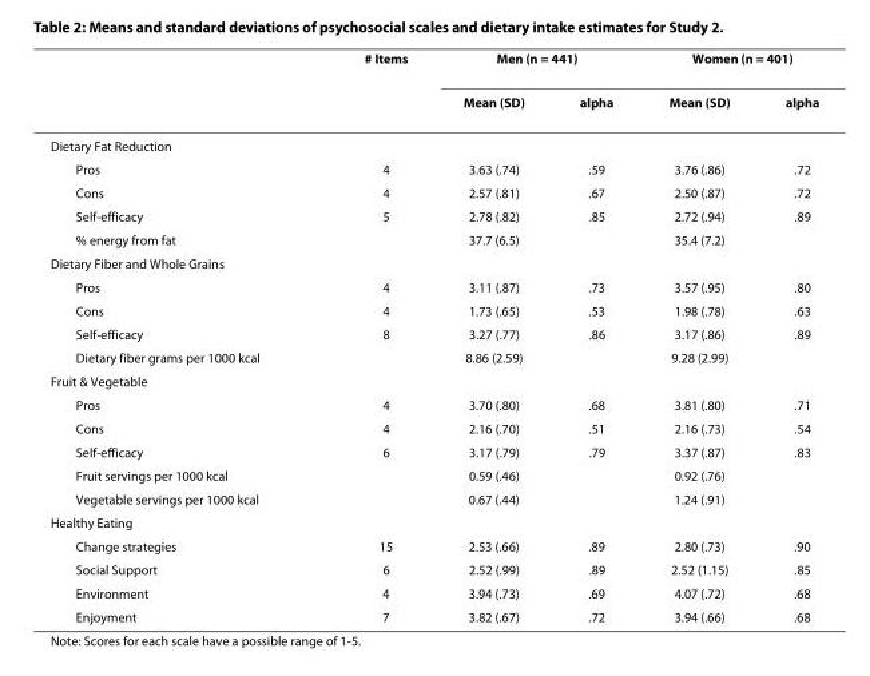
<table><thead><tr><td rowspan="2"></td><td rowspan="2"># Items</td><td colspan="2">Men (n = 441)</td><td colspan="2">Women (n = 401)</td></tr><tr><td>Mean (SD)</td><td>alpha</td><td>Mean (SD)</td><td>alpha</td></tr></thead><tbody><tr><td colspan="6">Dietary Fat Reduction</td></tr><tr><td>Pros</td><td>4</td><td>3.63 (.74)</td><td>.59</td><td>3.76 (.86)</td><td>.72</td></tr><tr><td>Cons</td><td>4</td><td>2.57 (.81)</td><td>.67</td><td>2.50 (.87)</td><td>.72</td></tr><tr><td>Self-efficacy</td><td>5</td><td>2.78 (.82)</td><td>.85</td><td>2.72 (.94)</td><td>.89</td></tr><tr><td>% energy from fat</td><td></td><td>37.7 (6.5)</td><td></td><td>35.4 (7.2)</td><td></td></tr><tr><td colspan="6">Dietary Fiber and Whole Grains</td></tr><tr><td>Pros</td><td>4</td><td>3.11 (.87)</td><td>.73</td><td>3.57 (.95)</td><td>.80</td></tr><tr><td>Cons</td><td>4</td><td>1.73 (.65)</td><td>.53</td><td>1.98 (.78)</td><td>.63</td></tr><tr><td>Self-efficacy</td><td>8</td><td>3.27 (.77)</td><td>.86</td><td>3.17 (.86)</td><td>.89</td></tr><tr><td>Dietary fiber grams per 1000 kcal</td><td></td><td>8.86 (2.59)</td><td></td><td>9.28 (2.99)</td><td></td></tr><tr><td colspan="6">Fruit &amp; Vegetable</td></tr><tr><td>Pros</td><td>4</td><td>3.70 (.80)</td><td>.68</td><td>3.81 (.80)</td><td>.71</td></tr><tr><td>Cons</td><td>4</td><td>2.16 (.70)</td><td>.51</td><td>2.16 (.73)</td><td>.54</td></tr><tr><td>Self-efficacy</td><td>6</td><td>3.17 (.79)</td><td>.79</td><td>3.37 (.87)</td><td>.83</td></tr><tr><td>Fruit servings per 1000 kcal</td><td></td><td>0.59 (.46)</td><td></td><td>0.92 (.76)</td><td></td></tr><tr><td>Vegetable servings per 1000 kcal</td><td></td><td>0.67 (.44)</td><td></td><td>1.24 (.91)</td><td></td></tr><tr><td colspan="6">Healthy Eating</td></tr><tr><td>Change strategies</td><td>15</td><td>2.53 (.66)</td><td>.89</td><td>2.80 (.73)</td><td>.90</td></tr><tr><td>Social Support</td><td>6</td><td>2.52 (.99)</td><td>.89</td><td>2.52 (1.15)</td><td>.85</td></tr><tr><td>Environment</td><td>4</td><td>3.94 (.73)</td><td>.69</td><td>4.07 (.72)</td><td>.68</td></tr><tr><td>Enjoyment</td><td>7</td><td>3.82 (.67)</td><td>.72</td><td>3.94 (.66)</td><td>.68</td></tr></tbody></table>